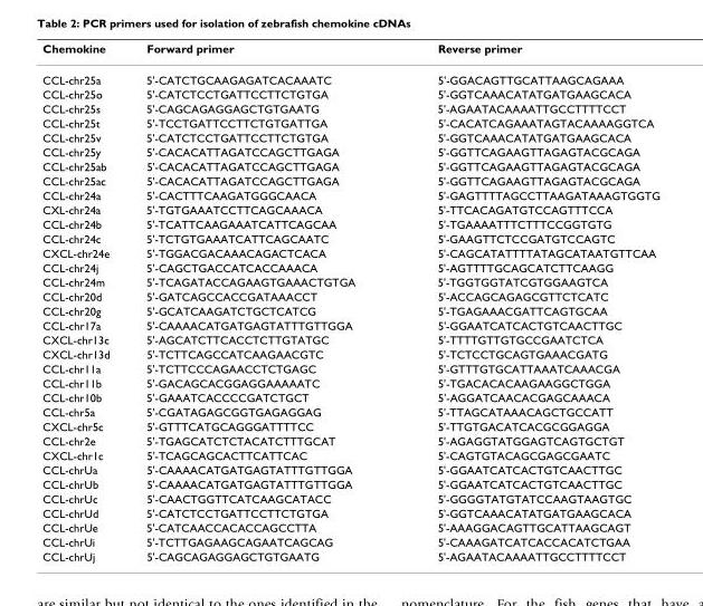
<table><thead><tr><td>Chemokine</td><td>Forward primer</td><td>Reverse primer</td></tr></thead><tbody><tr><td>CCL-chr25a</td><td>5&#x27;-CATCTGCAAGAGATCACAAATC</td><td>5&#x27;-GGACAGTTGCATTAAGCAGAAA</td></tr><tr><td>CCL-chr25o</td><td>5&#x27;-CATCTCCTGATTCCTTCTGTGA</td><td>5&#x27;-GGTCAAACATATGATGAAGCACA</td></tr><tr><td>CCL-chr25s</td><td>5&#x27;-CAGCAGAGGAGCTGTGAATG</td><td>5&#x27;-AGAATACAAAATTGCCTTTTCCT</td></tr><tr><td>CCL-chr25t</td><td>5&#x27;-TCCTGATTCCTTCTGTGATTGA</td><td>5&#x27;-CACATCAGAAATAGTACAAAAGGTCA</td></tr><tr><td>CCL-chr25v</td><td>5&#x27;-CATCTCCTGATTCCTTCTGTGA</td><td>5&#x27;-GGTCAAACATATGATGAAGCACA</td></tr><tr><td>CCL-chr25y</td><td>5&#x27;-CACACATTAGATCCAGCTTGAGA</td><td>5&#x27;-GGTTCAGAAGTTAGAGTACGCAGA</td></tr><tr><td>CCL-chr25ab</td><td>5&#x27;-CACACATTAGATCCAGCTTGAGA</td><td>5&#x27;-GGTTCAGAAGTTAGAGTACGCAGA</td></tr><tr><td>CCL-chr25ac</td><td>5&#x27;-CACACATTAGATCCAGCTTGAGA</td><td>5&#x27;-GGTTCAGAAGTTAGAGTACGCAGA</td></tr><tr><td>CCL-chr24a</td><td>5&#x27;-CACTTTCAAGATGGGCAACA</td><td>5&#x27;-GAGTTTTAGCCTTAAGATAAAGTGGTG</td></tr><tr><td>CXL-chr24a</td><td>5&#x27;-TGTGAAATCCTTCAGCAAACA</td><td>5&#x27;-TTCACAGATGTCCAGTTTCCA</td></tr><tr><td>CCL-chr24b</td><td>5&#x27;-TCATTCAAGAAATCATTCAGCAA</td><td>5&#x27;-TGAAAATTTCTTTCCGGTGTG</td></tr><tr><td>CCL-chr24c</td><td>5&#x27;-TCTGTGAAATCATTCAGCAATC</td><td>5&#x27;-GAAGTTCTCCGATGTCCAGTC</td></tr><tr><td>CXCL-chr24e</td><td>5&#x27;-TGGACGACAAACAGACTCACA</td><td>5&#x27;-CAGCATATTTTATAGCATAATGTTCAA</td></tr><tr><td>CCL-chr24j</td><td>5&#x27;-CAGCTGACCATCACCAAACA</td><td>5&#x27;-AGTTTTGCAGCATCTTCAAGG</td></tr><tr><td>CCL-chr24m</td><td>5&#x27;-TCAGATACCAGAAGTGAAACTGTGA</td><td>5&#x27;-TGGTGGTATCGTGGAAGTCA</td></tr><tr><td>CCL-chr20d</td><td>5&#x27;-GATCAGCCACCGATAAACCT</td><td>5&#x27;-ACCAGCAGAGCGTTCTCATC</td></tr><tr><td>CCL-chr20g</td><td>5&#x27;-GCATCAAGATCTGCTCATCG</td><td>5&#x27;-TGAGAAACGATTCAGTGCAA</td></tr><tr><td>CCL-chr17a</td><td>5&#x27;-CAAAACATGATGAGTATTTGTTGGA</td><td>5&#x27;-GGAATCATCACTGTCAACTTGC</td></tr><tr><td>CXCL-chr13c</td><td>5&#x27;-AGCATCTTCACCTCTTGTATGC</td><td>5&#x27;-TTTTGTTGTGCCGAATCTCA</td></tr><tr><td>CXCL-chr13d</td><td>5&#x27;-TCTTCAGCCATCAAGAACGTC</td><td>5&#x27;-TCTCCTGCAGTGAAACGATG</td></tr><tr><td>CCL-chr11a</td><td>5&#x27;-TCTTCCCAGAACCTCTGAGC</td><td>5&#x27;-GTTTGTGCATTAAATCAAACGA</td></tr><tr><td>CCL-chr11b</td><td>5&#x27;-GACAGCACGGAGGAAAAATC</td><td>5&#x27;-TGACACACAAGAAGGCTGGA</td></tr><tr><td>CCL-chr10b</td><td>5&#x27;-GAAATCACCCCGATCTGCT</td><td>5&#x27;-AGGATCAACACGAGCAAACA</td></tr><tr><td>CCL-chr5a</td><td>5&#x27;-CGATAGAGCGGTGAGAGGAG</td><td>5&#x27;-TTAGCATAAACAGCTGCCATT</td></tr><tr><td>CXCL-chr5c</td><td>5&#x27;-GTTTCATGCAGGGATTTTCC</td><td>5&#x27;-TTGTGACATCACGCGGAGGA</td></tr><tr><td>CCL-chr2e</td><td>5&#x27;-TGAGCATCTCTACATCTTTGCAT</td><td>5&#x27;-AGAGGTATGGAGTCAGTGCTGT</td></tr><tr><td>CXCL-chr1c</td><td>5&#x27;-TCAGCAGCACTTCATTCAC</td><td>5&#x27;-CAGTGTACAGCGAGCGAATC</td></tr><tr><td>CCL-chrUa</td><td>5&#x27;-CAAAACATGATGAGTATTTGTTGGA</td><td>5&#x27;-GGAATCATCACTGTCAACTTGC</td></tr><tr><td>CCL-chrUb</td><td>5&#x27;-CAAAACATGATGAGTATTTGTTGGA</td><td>5&#x27;-GGAATCATCACTGTCAACTTGC</td></tr><tr><td>CCL-chrUc</td><td>5&#x27;-CAACTGGTTCATCAAGCATACC</td><td>5&#x27;-GGGGTATGTATCCAAGTAAGTGC</td></tr><tr><td>CCL-chrUd</td><td>5&#x27;-CATCTCCTGATTCCTTCTGTGA</td><td>5&#x27;-GGTCAAACATATGATGAAGCACA</td></tr><tr><td>CCL-chrUe</td><td>5&#x27;-CATCAACCACACCAGCCTTA</td><td>5&#x27;-AAAGGACAGTTGCATTAAGCAGT</td></tr><tr><td>CCL-chrUi</td><td>5&#x27;-TCTTGAGAAGCAGAATCAGCAG</td><td>5&#x27;-CAAAGATCATCACCACATCTGAA</td></tr><tr><td>CCL-chrUj</td><td>5&#x27;-CAGCAGAGGAGCTGTGAATG</td><td>5&#x27;-AGAATACAAAATTGCCTTTTCCT</td></tr></tbody></table>